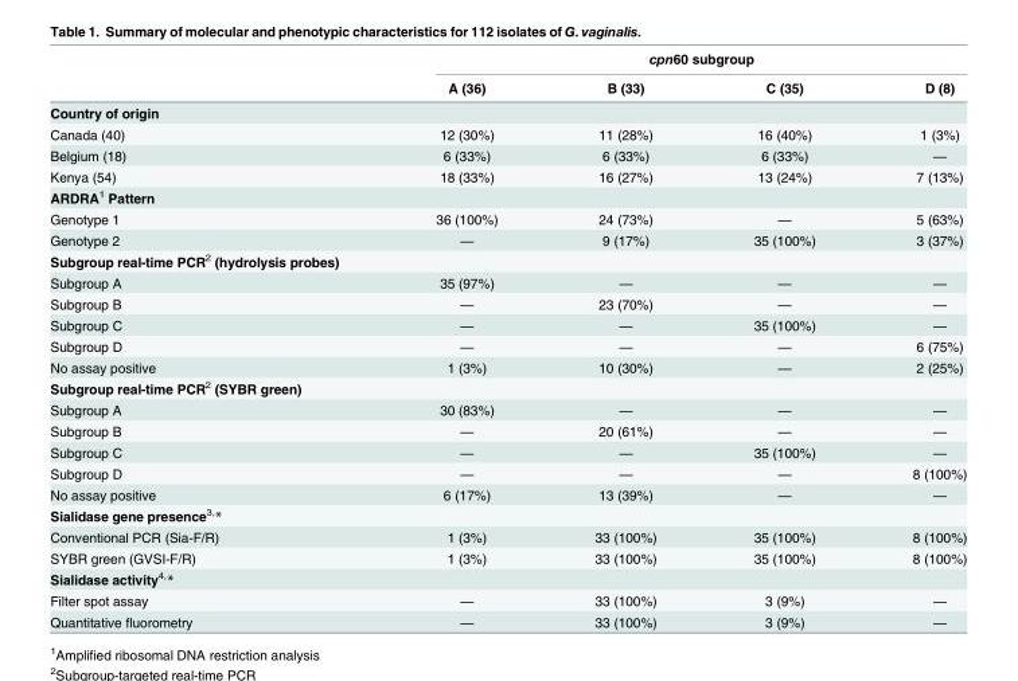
<table><thead><tr><td rowspan="2"></td><td colspan="4">cpn60 subgroup</td></tr><tr><td>A (36)</td><td>B (33)</td><td>C (35)</td><td>D (8)</td></tr></thead><tbody><tr><td colspan="5">Country of origin</td></tr><tr><td>Canada (40)</td><td>12 (30%)</td><td>11 (28%)</td><td>16 (40%)</td><td>1 (3%)</td></tr><tr><td>Belgium (18)</td><td>6 (33%)</td><td>6 (33%)</td><td>6 (33%)</td><td>—</td></tr><tr><td>Kenya (54)</td><td>18 (33%)</td><td>16 (27%)</td><td>13 (24%)</td><td>7 (13%)</td></tr><tr><td colspan="5">ARDRA<sup>1</sup> Pattern</td></tr><tr><td>Genotype 1</td><td>36 (100%)</td><td>24 (73%)</td><td>—</td><td>5 (63%)</td></tr><tr><td>Genotype 2</td><td>—</td><td>9 (17%)</td><td>35 (100%)</td><td>3 (37%)</td></tr><tr><td colspan="5">Subgroup real-time PCR<sup>2</sup> (hydrolysis probes)</td></tr><tr><td>Subgroup A</td><td>35 (97%)</td><td>—</td><td>—</td><td>—</td></tr><tr><td>Subgroup B</td><td>—</td><td>23 (70%)</td><td>—</td><td>—</td></tr><tr><td>Subgroup C</td><td>—</td><td>—</td><td>35 (100%)</td><td>—</td></tr><tr><td>Subgroup D</td><td>—</td><td>—</td><td>—</td><td>6 (75%)</td></tr><tr><td>No assay positive</td><td>1 (3%)</td><td>10 (30%)</td><td>—</td><td>2 (25%)</td></tr><tr><td colspan="5">Subgroup real-time PCR<sup>2</sup> (SYBR green)</td></tr><tr><td>Subgroup A</td><td>30 (83%)</td><td>—</td><td>—</td><td>—</td></tr><tr><td>Subgroup B</td><td>—</td><td>20 (61%)</td><td>—</td><td>—</td></tr><tr><td>Subgroup C</td><td>—</td><td>—</td><td>35 (100%)</td><td>—</td></tr><tr><td>Subgroup D</td><td>—</td><td>—</td><td>—</td><td>8 (100%)</td></tr><tr><td>No assay positive</td><td>6 (17%)</td><td>13 (39%)</td><td>—</td><td>—</td></tr><tr><td colspan="5">Sialidase gene presence<sup>3,</sup>*</td></tr><tr><td>Conventional PCR (Sia-F/R)</td><td>1 (3%)</td><td>33 (100%)</td><td>35 (100%)</td><td>8 (100%)</td></tr><tr><td>SYBR green (GVSI-F/R)</td><td>1 (3%)</td><td>33 (100%)</td><td>35 (100%)</td><td>8 (100%)</td></tr><tr><td colspan="5">Sialidase activity<sup>4,</sup>*</td></tr><tr><td>Filter spot assay</td><td>—</td><td>33 (100%)</td><td>3 (9%)</td><td>—</td></tr><tr><td>Quantitative fluorometry</td><td>—</td><td>33 (100%)</td><td>3 (9%)</td><td>—</td></tr></tbody></table>